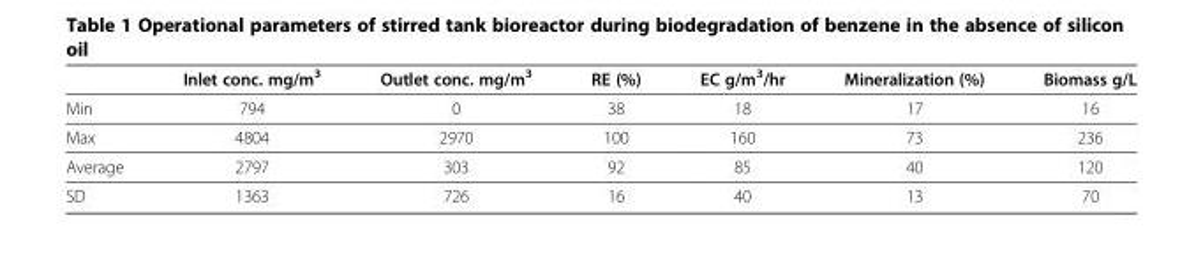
<table><thead><tr><td></td><td>Inlet conc. mg/m<sup>3</sup></td><td>Outlet conc. mg/m<sup>3</sup></td><td>RE (%)</td><td>EC g/m<sup>3</sup>/hr</td><td>Mineralization (%)</td><td>Biomass g/L</td></tr></thead><tbody><tr><td>Min</td><td>794</td><td>0</td><td>38</td><td>18</td><td>17</td><td>16</td></tr><tr><td>Max</td><td>4804</td><td>2970</td><td>100</td><td>160</td><td>73</td><td>236</td></tr><tr><td>Average</td><td>2797</td><td>303</td><td>92</td><td>85</td><td>40</td><td>120</td></tr><tr><td>SD</td><td>1363</td><td>726</td><td>16</td><td>40</td><td>13</td><td>70</td></tr></tbody></table>